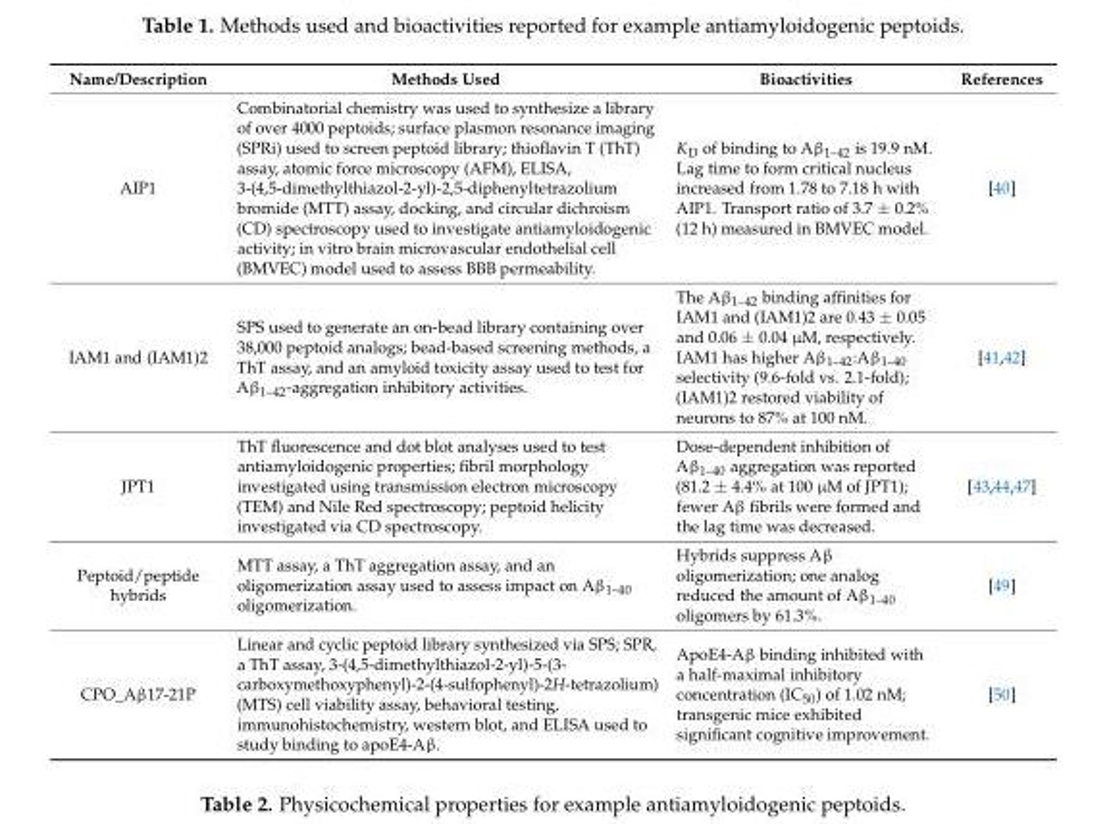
<table><thead><tr><td>Name/Description</td><td>Methods Used</td><td>Bioactivities</td><td>References</td></tr></thead><tbody><tr><td>AIP1</td><td>Combinatorial chemistry was used to synthesize a library of over 4000 peptoids; surface plasmon resonance imaging (SPRi) used to screen peptoid library; thioflavin T (ThT) assay, atomic force microscopy (AFM), ELISA, 3-(4,5-dimethylthiazol-2-yl)-2,5-diphenyltetrazolium bromide (MTT) assay, docking, and circular dichroism (CD) spectroscopy used to investigate antiamyloidogenic activity; in vitro brain microvascular endothelial cell (BMVEC) model used to assess BBB permeability.</td><td>K<sub>D</sub> of binding to Aβ<sub>1–42</sub> is 19.9 nM. Lag time to form critical nucleus increased from 1.78 to 7.18 h with AIP1. Transport ratio of 3.7 ± 0.2% (12 h) measured in BMVEC model.</td><td>[40]</td></tr><tr><td>IAM1 and (IAM1)2</td><td>SPS used to generate an on-bead library containing over 38,000 peptoid analogs; bead-based screening methods, a ThT assay, and an amyloid toxicity assay used to test for Aβ<sub>1–42</sub>-aggregation inhibitory activities.</td><td>The Aβ<sub>1–42</sub> binding affinities for IAM1 and (IAM1)2 are 0.43 ± 0.05 and 0.06 ± 0.04 µM, respectively. IAM1 has higher Aβ<sub>1–42</sub>:Aβ<sub>1–40</sub> selectivity (9.6-fold vs. 2.1-fold); (IAM1)2 restored viability of neurons to 87% at 100 nM.</td><td>[41,42]</td></tr><tr><td>JPT1</td><td>ThT fluorescence and dot blot analyses used to test antiamyloidogenic properties; fibril morphology investigated using transmission electron microscopy (TEM) and Nile Red spectroscopy; peptoid helicity investigated via CD spectroscopy.</td><td>Dose-dependent inhibition of Aβ<sub>1–40</sub> aggregation was reported (81.2 ± 4.4% at 100 µM of JPT1); fewer Aβ fibrils were formed and the lag time was decreased.</td><td>[43,44,47]</td></tr><tr><td>Peptoid/peptide hybrids</td><td>MTT assay, a ThT aggregation assay, and an oligomerization assay used to assess impact on Aβ<sub>1–40</sub> oligomerization.</td><td>Hybrids suppress Aβ oligomerization; one analog reduced the amount of Aβ<sub>1–40</sub> oligomers by 61.3%.</td><td>[49]</td></tr><tr><td>CPO_Aβ17-21P</td><td>Linear and cyclic peptoid library synthesized via SPS; SPR, a ThT assay, 3-(4,5-dimethylthiazol-2-yl)-5-(3- carboxymethoxyphenyl)-2-(4-sulfophenyl)-2H-tetrazolium) (MTS) cell viability assay, behavioral testing, immunohistochemistry, western blot, and ELISA used to study binding to apoE4-Aβ.</td><td>ApoE4-Aβ binding inhibited with a half-maximal inhibitory concentration (IC<sub>50</sub>) of 1.02 nM; transgenic mice exhibited significant cognitive improvement.</td><td>[50]</td></tr></tbody></table>